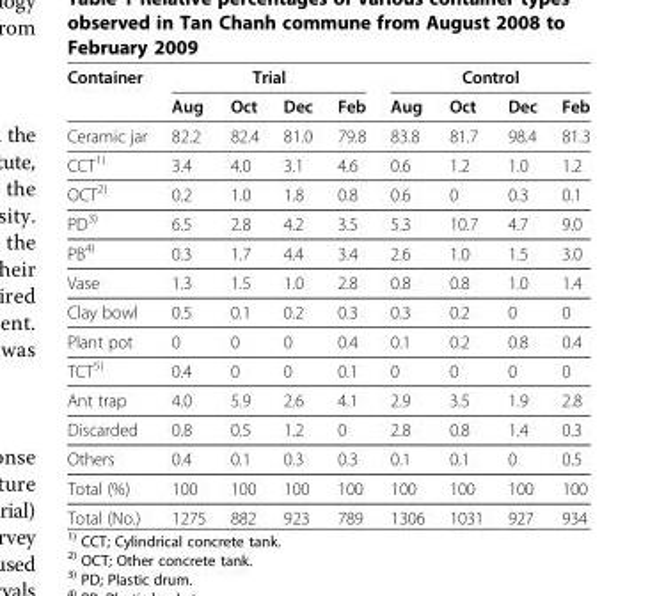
<table><thead><tr><td rowspan="2">Container</td><td colspan="4">Trial</td><td colspan="4">Control</td></tr><tr><td>Aug</td><td>Oct</td><td>Dec</td><td>Feb</td><td>Aug</td><td>Oct</td><td>Dec</td><td>Feb</td></tr></thead><tbody><tr><td>Ceramic jar</td><td>82.2</td><td>82.4</td><td>81.0</td><td>79.8</td><td>83.8</td><td>81.7</td><td>98.4</td><td>81.3</td></tr><tr><td>CCT<sup>1)</sup></td><td>3.4</td><td>4.0</td><td>3.1</td><td>4.6</td><td>0.6</td><td>1.2</td><td>1.0</td><td>1.2</td></tr><tr><td>OCT<sup>2)</sup></td><td>0.2</td><td>1.0</td><td>1.8</td><td>0.8</td><td>0.6</td><td>0</td><td>0.3</td><td>0.1</td></tr><tr><td>PD<sup>3)</sup></td><td>6.5</td><td>2.8</td><td>4.2</td><td>3.5</td><td>5.3</td><td>10.7</td><td>4.7</td><td>9.0</td></tr><tr><td>PB<sup>4)</sup></td><td>0.3</td><td>1.7</td><td>4.4</td><td>3.4</td><td>2.6</td><td>1.0</td><td>1.5</td><td>3.0</td></tr><tr><td>Vase</td><td>1.3</td><td>1.5</td><td>1.0</td><td>2.8</td><td>0.8</td><td>0.8</td><td>1.0</td><td>1.4</td></tr><tr><td>Clay bowl</td><td>0.5</td><td>0.1</td><td>0.2</td><td>0.3</td><td>0.3</td><td>0.2</td><td>0</td><td>0</td></tr><tr><td>Plant pot</td><td>0</td><td>0</td><td>0</td><td>0.4</td><td>0.1</td><td>0.2</td><td>0.8</td><td>0.4</td></tr><tr><td>TCT<sup>5)</sup></td><td>0.4</td><td>0</td><td>0</td><td>0.1</td><td>0</td><td>0</td><td>0</td><td>0</td></tr><tr><td>Ant trap</td><td>4.0</td><td>5.9</td><td>2.6</td><td>4.1</td><td>2.9</td><td>3.5</td><td>1.9</td><td>2.8</td></tr><tr><td>Discarded</td><td>0.8</td><td>0.5</td><td>1.2</td><td>0</td><td>2.8</td><td>0.8</td><td>1.4</td><td>0.3</td></tr><tr><td>Others</td><td>0.4</td><td>0.1</td><td>0.3</td><td>0.3</td><td>0.1</td><td>0.1</td><td>0</td><td>0.5</td></tr><tr><td>Total (%)</td><td>100</td><td>100</td><td>100</td><td>100</td><td>100</td><td>100</td><td>100</td><td>100</td></tr><tr><td>Total (No.)</td><td>1275</td><td>882</td><td>923</td><td>789</td><td>1306</td><td>1031</td><td>927</td><td>934</td></tr></tbody></table>